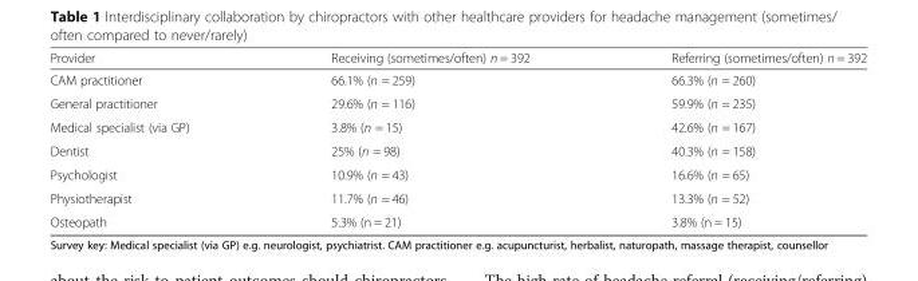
<table><thead><tr><td>Provider</td><td>Receiving (sometimes/often) n = 392</td><td>Referring (sometimes/often) n = 392</td></tr></thead><tbody><tr><td>CAM practitioner</td><td>66.1% (n = 259)</td><td>66.3% (n = 260)</td></tr><tr><td>General practitioner</td><td>29.6% (n = 116)</td><td>59.9% (n = 235)</td></tr><tr><td>Medical specialist (via GP)</td><td>3.8% (n = 15)</td><td>42.6% (n = 167)</td></tr><tr><td>Dentist</td><td>25% (n = 98)</td><td>40.3% (n = 158)</td></tr><tr><td>Psychologist</td><td>10.9% (n = 43)</td><td>16.6% (n = 65)</td></tr><tr><td>Physiotherapist</td><td>11.7% (n = 46)</td><td>13.3% (n = 52)</td></tr><tr><td>Osteopath</td><td>5.3% (n = 21)</td><td>3.8% (n = 15)</td></tr></tbody></table>